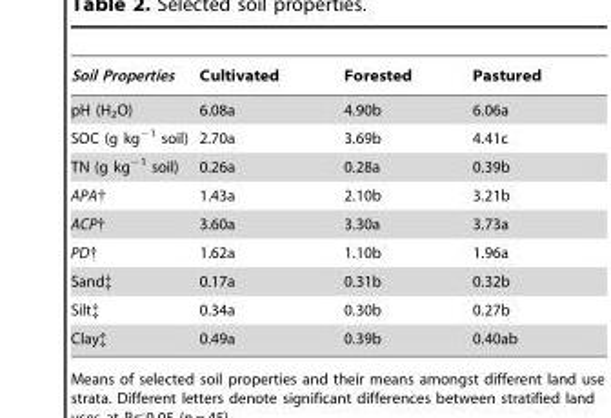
<table><thead><tr><td>Soil Properties</td><td>Cultivated</td><td>Forested</td><td>Pastured</td></tr></thead><tbody><tr><td>pH (H<sub>2</sub>O)</td><td>6.08a</td><td>4.90b</td><td>6.06a</td></tr><tr><td>SOC (g kg<sup>−1</sup> soil)</td><td>2.70a</td><td>3.69b</td><td>4.41c</td></tr><tr><td>TN (g kg<sup>−1</sup> soil)</td><td>0.26a</td><td>0.28a</td><td>0.39b</td></tr><tr><td>APA†</td><td>1.43a</td><td>2.10b</td><td>3.21b</td></tr><tr><td>ACP†</td><td>3.60a</td><td>3.30a</td><td>3.73a</td></tr><tr><td>PD†</td><td>1.62a</td><td>1.10b</td><td>1.96a</td></tr><tr><td>Sand‡</td><td>0.17a</td><td>0.31b</td><td>0.32b</td></tr><tr><td>Silt‡</td><td>0.34a</td><td>0.30b</td><td>0.27b</td></tr><tr><td>Clay‡</td><td>0.49a</td><td>0.39b</td><td>0.40ab</td></tr></tbody></table>